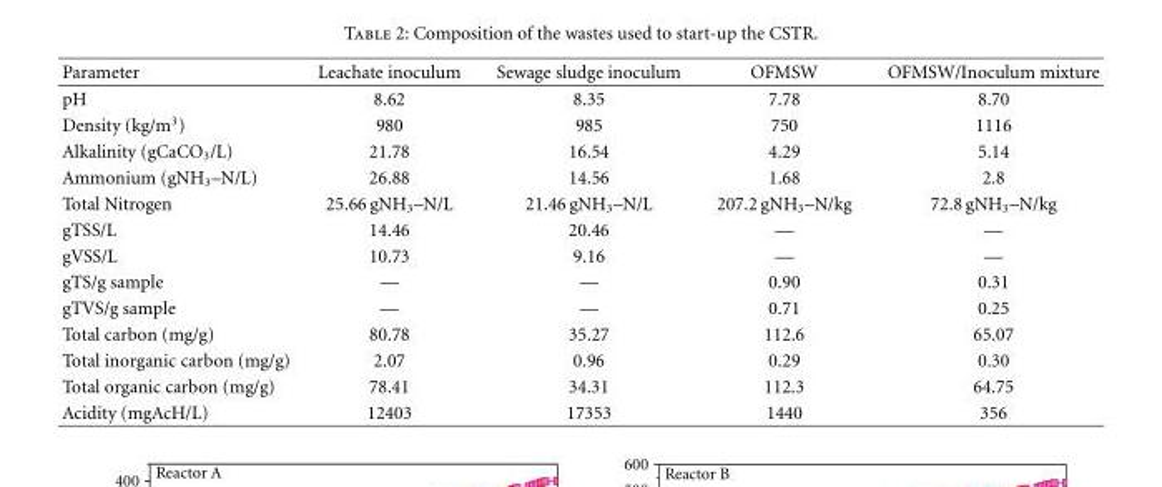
<table><thead><tr><td>Parameter</td><td>Leachate inoculum</td><td>Sewage sludge inoculum</td><td>OFMSW</td><td>OFMSW/Inoculum mixture</td></tr></thead><tbody><tr><td>pH</td><td>8.62</td><td>8.35</td><td>7.78</td><td>8.70</td></tr><tr><td>Density (kg/m<sup>3</sup>)</td><td>980</td><td>985</td><td>750</td><td>1116</td></tr><tr><td>Alkalinity (gCaCO<sub>3</sub>/L)</td><td>21.78</td><td>16.54</td><td>4.29</td><td>5.14</td></tr><tr><td>Ammonium (gNH<sub>3</sub>–N/L)</td><td>26.88</td><td>14.56</td><td>1.68</td><td>2.8</td></tr><tr><td>Total Nitrogen</td><td>25.66 gNH<sub>3</sub>–N/L</td><td>21.46 gNH<sub>3</sub>–N/L</td><td>207.2 gNH<sub>3</sub>–N/kg</td><td>72.8 gNH<sub>3</sub>–N/kg</td></tr><tr><td>gTSS/L</td><td>14.46</td><td>20.46</td><td>—</td><td>—</td></tr><tr><td>gVSS/L</td><td>10.73</td><td>9.16</td><td>—</td><td>—</td></tr><tr><td>gTS/g sample</td><td>—</td><td>—</td><td>0.90</td><td>0.31</td></tr><tr><td>gTVS/g sample</td><td>—</td><td>—</td><td>0.71</td><td>0.25</td></tr><tr><td>Total carbon (mg/g)</td><td>80.78</td><td>35.27</td><td>112.6</td><td>65.07</td></tr><tr><td>Total inorganic carbon (mg/g)</td><td>2.07</td><td>0.96</td><td>0.29</td><td>0.30</td></tr><tr><td>Total organic carbon (mg/g)</td><td>78.41</td><td>34.31</td><td>112.3</td><td>64.75</td></tr><tr><td>Acidity (mgAcH/L)</td><td>12403</td><td>17353</td><td>1440</td><td>356</td></tr></tbody></table>